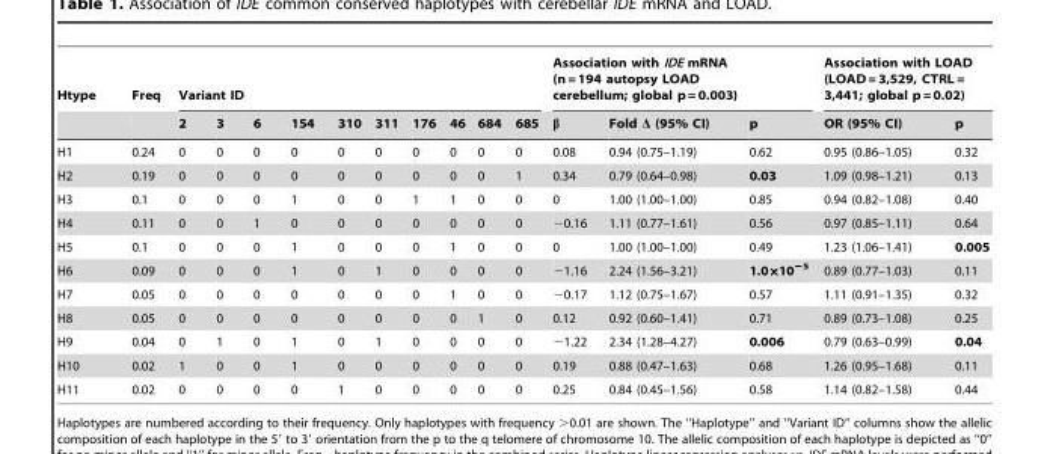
<table><thead><tr><td rowspan="2">Htype</td><td rowspan="2">Freq</td><td colspan="10">Variant ID</td><td colspan="3">Association with IDE mRNA (n = 194 autopsy LOAD cerebellum; global p = 0.003)</td><td colspan="2">Association with LOAD (LOAD = 3,529, CTRL = 3,441; global p = 0.02)</td></tr><tr><td>2</td><td>3</td><td>6</td><td>154</td><td>310</td><td>311</td><td>176</td><td>46</td><td>684</td><td>685</td><td>β</td><td>Fold Δ (95% CI)</td><td>p</td><td>OR (95% CI)</td><td>p</td></tr></thead><tbody><tr><td>H1</td><td>0.24</td><td>0</td><td>0</td><td>0</td><td>0</td><td>0</td><td>0</td><td>0</td><td>0</td><td>0</td><td>0</td><td>0.08</td><td>0.94 (0.75–1.19)</td><td>0.62</td><td>0.95 (0.86–1.05)</td><td>0.32</td></tr><tr><td>H2</td><td>0.19</td><td>0</td><td>0</td><td>0</td><td>0</td><td>0</td><td>0</td><td>0</td><td>0</td><td>0</td><td>1</td><td>0.34</td><td>0.79 (0.64–0.98)</td><td>0.03</td><td>1.09 (0.98–1.21)</td><td>0.13</td></tr><tr><td>H3</td><td>0.1</td><td>0</td><td>0</td><td>0</td><td>1</td><td>0</td><td>0</td><td>1</td><td>1</td><td>0</td><td>0</td><td>0</td><td>1.00 (1.00–1.00)</td><td>0.85</td><td>0.94 (0.82–1.08)</td><td>0.40</td></tr><tr><td>H4</td><td>0.11</td><td>0</td><td>0</td><td>1</td><td>0</td><td>0</td><td>0</td><td>0</td><td>0</td><td>0</td><td>0</td><td>−0.16</td><td>1.11 (0.77–1.61)</td><td>0.56</td><td>0.97 (0.85–1.11)</td><td>0.64</td></tr><tr><td>H5</td><td>0.1</td><td>0</td><td>0</td><td>0</td><td>1</td><td>0</td><td>0</td><td>0</td><td>1</td><td>0</td><td>0</td><td>0</td><td>1.00 (1.00–1.00)</td><td>0.49</td><td>1.23 (1.06–1.41)</td><td>0.005</td></tr><tr><td>H6</td><td>0.09</td><td>0</td><td>0</td><td>0</td><td>1</td><td>0</td><td>1</td><td>0</td><td>0</td><td>0</td><td>0</td><td>−1.16</td><td>2.24 (1.56–3.21)</td><td>1.0×10<sup>−5</sup></td><td>0.89 (0.77–1.03)</td><td>0.11</td></tr><tr><td>H7</td><td>0.05</td><td>0</td><td>0</td><td>0</td><td>0</td><td>0</td><td>0</td><td>0</td><td>1</td><td>0</td><td>0</td><td>−0.17</td><td>1.12 (0.75–1.67)</td><td>0.57</td><td>1.11 (0.91–1.35)</td><td>0.32</td></tr><tr><td>H8</td><td>0.05</td><td>0</td><td>0</td><td>0</td><td>0</td><td>0</td><td>0</td><td>0</td><td>0</td><td>1</td><td>0</td><td>0.12</td><td>0.92 (0.60–1.41)</td><td>0.71</td><td>0.89 (0.73–1.08)</td><td>0.25</td></tr><tr><td>H9</td><td>0.04</td><td>0</td><td>1</td><td>0</td><td>1</td><td>0</td><td>1</td><td>0</td><td>0</td><td>0</td><td>0</td><td>−1.22</td><td>2.34 (1.28–4.27)</td><td>0.006</td><td>0.79 (0.63–0.99)</td><td>0.04</td></tr><tr><td>H10</td><td>0.02</td><td>1</td><td>0</td><td>0</td><td>1</td><td>0</td><td>0</td><td>0</td><td>0</td><td>0</td><td>0</td><td>0.19</td><td>0.88 (0.47–1.63)</td><td>0.68</td><td>1.26 (0.95–1.68)</td><td>0.11</td></tr><tr><td>H11</td><td>0.02</td><td>0</td><td>0</td><td>0</td><td>0</td><td>1</td><td>0</td><td>0</td><td>0</td><td>0</td><td>0</td><td>0.25</td><td>0.84 (0.45–1.56)</td><td>0.58</td><td>1.14 (0.82–1.58)</td><td>0.44</td></tr></tbody></table>